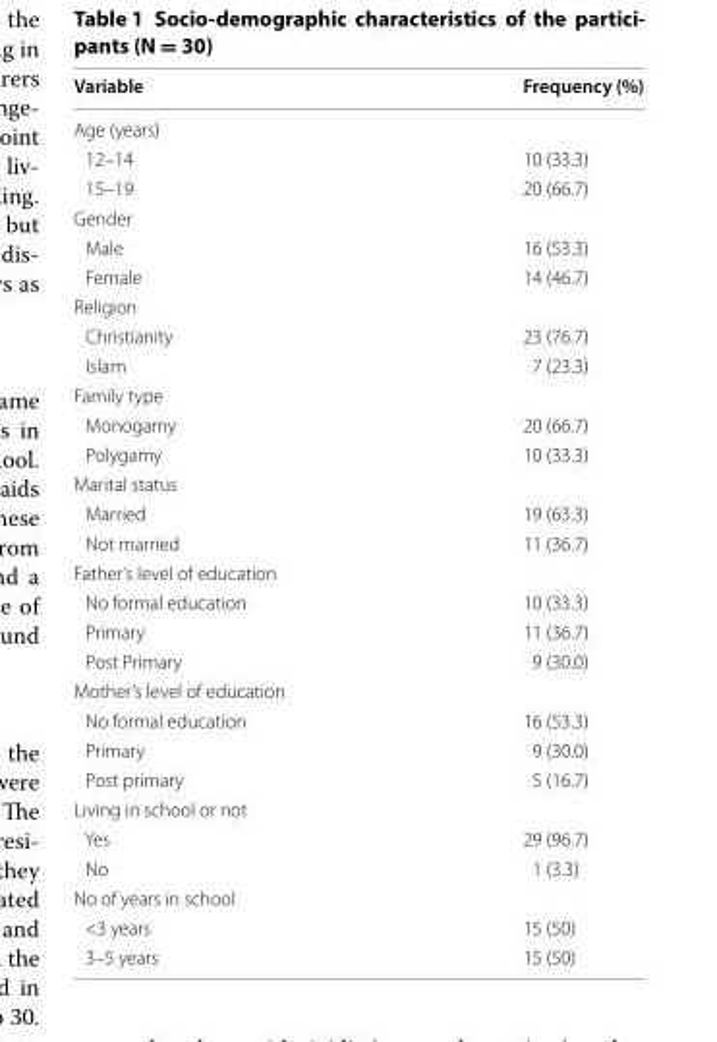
<table><thead><tr><td>Variable</td><td>Frequency (%)</td></tr></thead><tbody><tr><td colspan="2">Age (years)</td></tr><tr><td>12–14</td><td>10 (33.3)</td></tr><tr><td>15–19</td><td>20 (66.7)</td></tr><tr><td colspan="2">Gender</td></tr><tr><td>Male</td><td>16 (53.3)</td></tr><tr><td>Female</td><td>14 (46.7)</td></tr><tr><td colspan="2">Religion</td></tr><tr><td>Christianity</td><td>23 (76.7)</td></tr><tr><td>Islam</td><td>7 (23.3)</td></tr><tr><td colspan="2">Family type</td></tr><tr><td>Monogamy</td><td>20 (66.7)</td></tr><tr><td>Polygamy</td><td>10 (33.3)</td></tr><tr><td colspan="2">Marital status</td></tr><tr><td>Married</td><td>19 (63.3)</td></tr><tr><td>Not married</td><td>11 (36.7)</td></tr><tr><td colspan="2">Father’s level of education</td></tr><tr><td>No formal education</td><td>10 (33.3)</td></tr><tr><td>Primary</td><td>11 (36.7)</td></tr><tr><td>Post Primary</td><td>9 (30.0)</td></tr><tr><td colspan="2">Mother’s level of education</td></tr><tr><td>No formal education</td><td>16 (53.3)</td></tr><tr><td>Primary</td><td>9 (30.0)</td></tr><tr><td>Post primary</td><td>5 (16.7)</td></tr><tr><td colspan="2">Living in school or not</td></tr><tr><td>Yes</td><td>29 (96.7)</td></tr><tr><td>No</td><td>1 (3.3)</td></tr><tr><td colspan="2">No of years in school</td></tr><tr><td>&lt;3 years</td><td>15 (50)</td></tr><tr><td>3–5 years</td><td>15 (50)</td></tr></tbody></table>